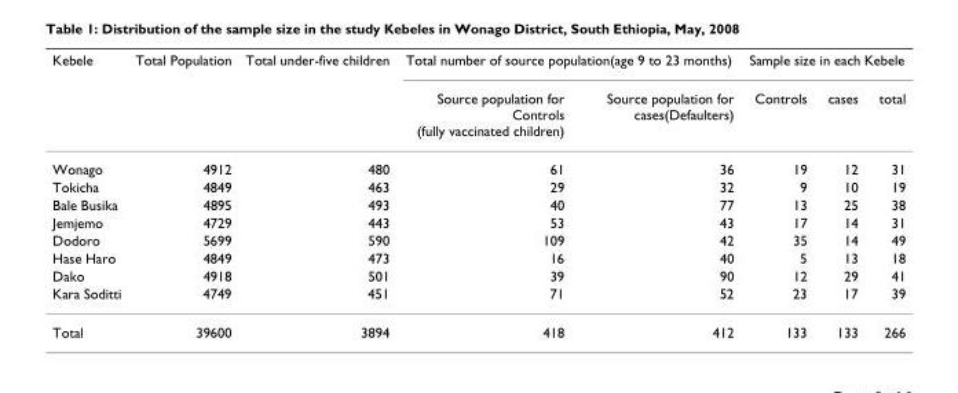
<table><thead><tr><td rowspan="2">Kebele</td><td rowspan="2">Total Population</td><td rowspan="2">Total under-five children</td><td colspan="2">Total number of source population(age 9 to 23 months)</td><td colspan="3">Sample size in each Kebele</td></tr><tr><td>Source population for Controls (fully vaccinated children)</td><td>Source population for cases(Defaulters)</td><td>Controls</td><td>cases</td><td>total</td></tr></thead><tbody><tr><td>Wonago</td><td>4912</td><td>480</td><td>61</td><td>36</td><td>19</td><td>12</td><td>31</td></tr><tr><td>Tokicha</td><td>4849</td><td>463</td><td>29</td><td>32</td><td>9</td><td>10</td><td>19</td></tr><tr><td>Bale Busika</td><td>4895</td><td>493</td><td>40</td><td>77</td><td>13</td><td>25</td><td>38</td></tr><tr><td>Jemjemo</td><td>4729</td><td>443</td><td>53</td><td>43</td><td>17</td><td>14</td><td>31</td></tr><tr><td>Dodoro</td><td>5699</td><td>590</td><td>109</td><td>42</td><td>35</td><td>14</td><td>49</td></tr><tr><td>Hase Haro</td><td>4849</td><td>473</td><td>16</td><td>40</td><td>5</td><td>13</td><td>18</td></tr><tr><td>Dako</td><td>4918</td><td>501</td><td>39</td><td>90</td><td>12</td><td>29</td><td>41</td></tr><tr><td>Kara Soditti</td><td>4749</td><td>451</td><td>71</td><td>52</td><td>23</td><td>17</td><td>39</td></tr><tr><td>Total</td><td>39600</td><td>3894</td><td>418</td><td>412</td><td>133</td><td>133</td><td>266</td></tr></tbody></table>